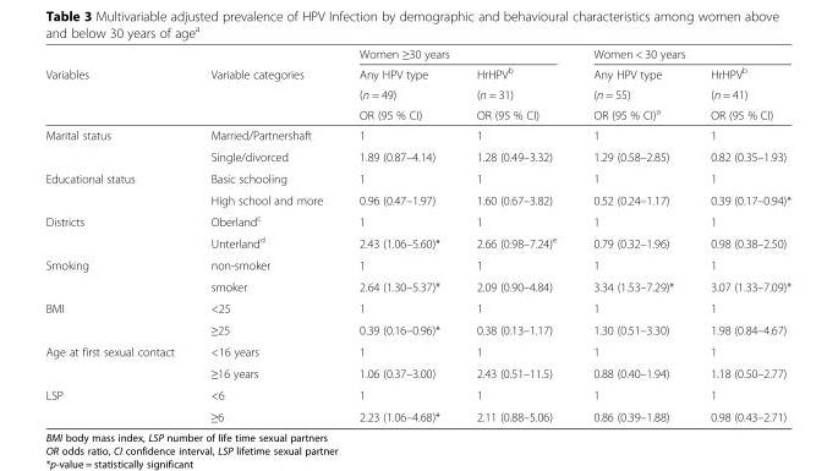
<table><thead><tr><td rowspan="4">Variables</td><td rowspan="4">Variable categories</td><td colspan="2">Women ≥30 years</td><td colspan="2">Women &lt; 30 years</td></tr><tr><td rowspan="3">Any HPV type (n = 49) OR (95 % CI)</td><td rowspan="3">HrHPV<sup>b</sup> (n = 31) OR (95 % CI)</td><td rowspan="3">Any HPV type (n = 55) OR (95 % CI)<sup>a</sup></td><td rowspan="3">HrHPV<sup>b</sup> (n = 41) OR (95 % CI)</td></tr><tr></tr><tr></tr></thead><tbody><tr><td rowspan="2">Marital status</td><td>Married/Partnershaft</td><td>1</td><td>1</td><td>1</td><td>1</td></tr><tr><td>Single/divorced</td><td>1.89 (0.87–4.14)</td><td>1.28 (0.49–3.32)</td><td>1.29 (0.58–2.85)</td><td>0.82 (0.35–1.93)</td></tr><tr><td rowspan="2">Educational status</td><td>Basic schooling</td><td>1</td><td>1</td><td>1</td><td>1</td></tr><tr><td>High school and more</td><td>0.96 (0.47–1.97)</td><td>1.60 (0.67–3.82)</td><td>0.52 (0.24–1.17)</td><td>0.39 (0.17–0.94)*</td></tr><tr><td rowspan="2">Districts</td><td>Oberland<sup>c</sup></td><td>1</td><td>1</td><td>1</td><td>1</td></tr><tr><td>Unterland<sup>d</sup></td><td>2.43 (1.06–5.60)*</td><td>2.66 (0.98–7.24)<sup>e</sup></td><td>0.79 (0.32–1.96)</td><td>0.98 (0.38–2.50)</td></tr><tr><td rowspan="2">Smoking</td><td>non-smoker</td><td>1</td><td>1</td><td>1</td><td>1</td></tr><tr><td>smoker</td><td>2.64 (1.30–5.37)*</td><td>2.09 (0.90–4.84)</td><td>3.34 (1.53–7.29)*</td><td>3.07 (1.33–7.09)*</td></tr><tr><td rowspan="2">BMI</td><td>&lt;25</td><td>1</td><td>1</td><td>1</td><td>1</td></tr><tr><td>≥25</td><td>0.39 (0.16–0.96)*</td><td>0.38 (0.13–1.17)</td><td>1.30 (0.51–3.30)</td><td>1.98 (0.84–4.67)</td></tr><tr><td rowspan="2">Age at first sexual contact</td><td>&lt;16 years</td><td>1</td><td>1</td><td>1</td><td>1</td></tr><tr><td>≥16 years</td><td>1.06 (0.37–3.00)</td><td>2.43 (0.51–11.5)</td><td>0.88 (0.40–1.94)</td><td>1.18 (0.50–2.77)</td></tr><tr><td rowspan="2">LSP</td><td>&lt;6</td><td>1</td><td>1</td><td>1</td><td>1</td></tr><tr><td>≥6</td><td>2.23 (1.06–4.68)*</td><td>2.11 (0.88–5.06)</td><td>0.86 (0.39–1.88)</td><td>0.98 (0.43–2.71)</td></tr></tbody></table>